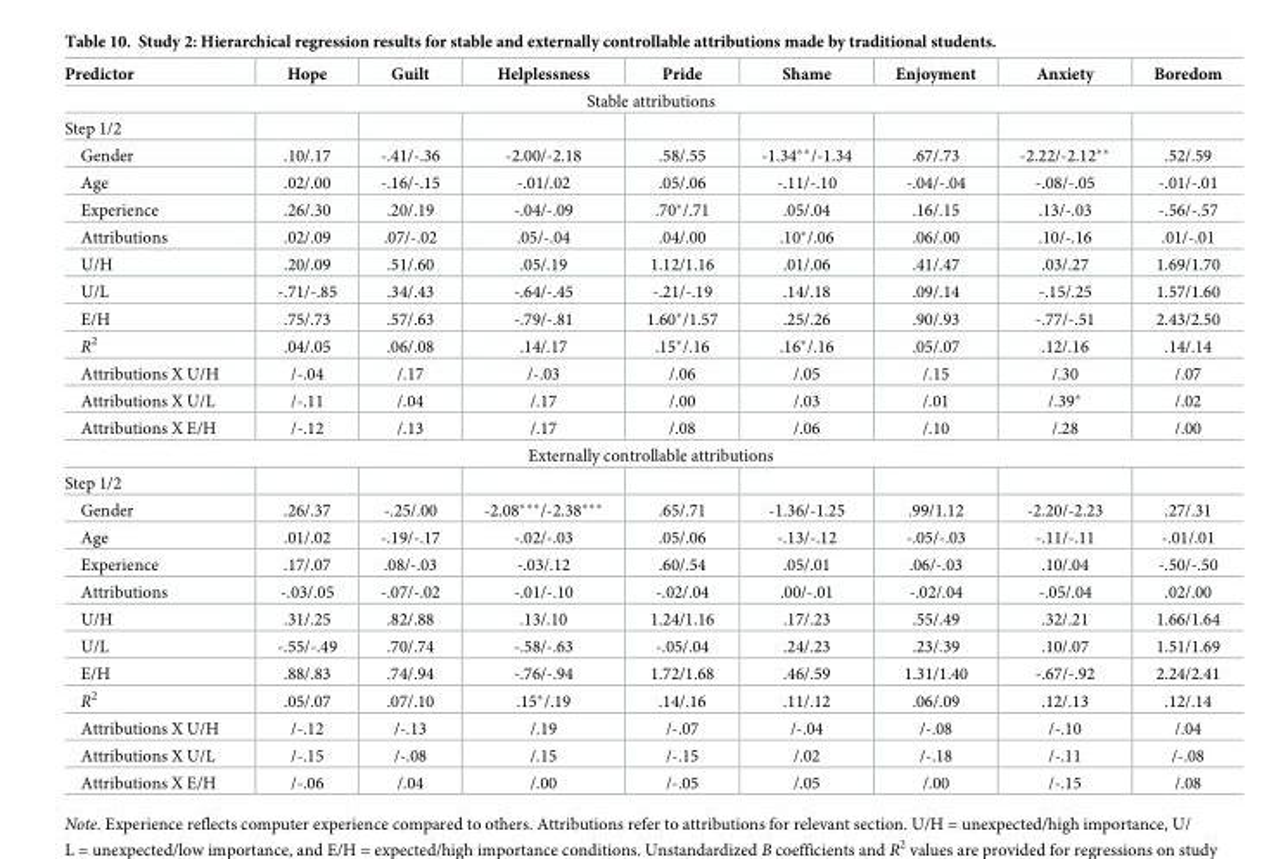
<table><thead><tr><td>Predictor</td><td>Hope</td><td>Guilt</td><td>Helplessness</td><td>Pride</td><td>Shame</td><td>Enjoyment</td><td>Anxiety</td><td>Boredom</td></tr></thead><tbody><tr><td colspan="9">Stable attributions</td></tr><tr><td colspan="9">Step 1/2</td></tr><tr><td>Gender</td><td>.10/.17</td><td>-.41/-.36</td><td>-2.00/-2.18</td><td>.58/.55</td><td>-1.34**/-1.34</td><td>.67/.73</td><td>-2.22/-2.12**</td><td>.52/.59</td></tr><tr><td>Age</td><td>.02/.00</td><td>-.16/-.15</td><td>-.01/.02</td><td>.05/.06</td><td>-.11/-.10</td><td>-.04/-.04</td><td>-.08/-.05</td><td>-.01/-.01</td></tr><tr><td>Experience</td><td>.26/.30</td><td>.20/.19</td><td>-.04/-.09</td><td>.70*/.71</td><td>.05/.04</td><td>.16/.15</td><td>.13/-.03</td><td>-.56/-.57</td></tr><tr><td>Attributions</td><td>.02/.09</td><td>.07/-.02</td><td>.05/-.04</td><td>.04/.00</td><td>.10*/.06</td><td>.06/.00</td><td>.10/-.16</td><td>.01/-.01</td></tr><tr><td>U/H</td><td>.20/.09</td><td>.51/.60</td><td>.05/.19</td><td>1.12/1.16</td><td>.01/.06</td><td>.41/.47</td><td>.03/.27</td><td>1.69/1.70</td></tr><tr><td>U/L</td><td>-.71/-.85</td><td>.34/.43</td><td>-.64/-.45</td><td>-.21/-.19</td><td>.14/.18</td><td>.09/.14</td><td>-.15/.25</td><td>1.57/1.60</td></tr><tr><td>E/H</td><td>.75/.73</td><td>.57/.63</td><td>-.79/-.81</td><td>1.60*/1.57</td><td>.25/.26</td><td>.90/.93</td><td>-.77/-.51</td><td>2.43/2.50</td></tr><tr><td>R<sup>2</sup></td><td>.04/.05</td><td>.06/.08</td><td>.14/.17</td><td>.15*/.16</td><td>.16*/.16</td><td>.05/.07</td><td>.12/.16</td><td>.14/.14</td></tr><tr><td>Attributions X U/H</td><td>/-.04</td><td>/.17</td><td>/-.03</td><td>/.06</td><td>/.05</td><td>/.15</td><td>/.30</td><td>/.07</td></tr><tr><td>Attributions X U/L</td><td>/-.11</td><td>/.04</td><td>/.17</td><td>/.00</td><td>/.03</td><td>/.01</td><td>/.39*</td><td>/.02</td></tr><tr><td>Attributions X E/H</td><td>/-.12</td><td>/.13</td><td>/.17</td><td>/.08</td><td>/.06</td><td>/.10</td><td>/.28</td><td>/.00</td></tr><tr><td colspan="9">Externally controllable attributions</td></tr><tr><td colspan="9">Step 1/2</td></tr><tr><td>Gender</td><td>.26/.37</td><td>-.25/.00</td><td>-2.08***/-2.38***</td><td>.65/.71</td><td>-1.36/-1.25</td><td>.99/1.12</td><td>-2.20/-2.23</td><td>.27/.31</td></tr><tr><td>Age</td><td>.01/.02</td><td>-.19/-.17</td><td>-.02/-.03</td><td>.05/.06</td><td>-.13/-.12</td><td>-.05/-.03</td><td>-.11/-.11</td><td>-.01/.01</td></tr><tr><td>Experience</td><td>.17/.07</td><td>.08/-.03</td><td>-.03/.12</td><td>.60/.54</td><td>.05/.01</td><td>.06/-.03</td><td>.10/.04</td><td>-.50/-.50</td></tr><tr><td>Attributions</td><td>-.03/.05</td><td>-.07/-.02</td><td>-.01/-.10</td><td>-.02/.04</td><td>.00/-.01</td><td>-.02/.04</td><td>-.05/.04</td><td>.02/.00</td></tr><tr><td>U/H</td><td>.31/.25</td><td>.82/.88</td><td>.13/.10</td><td>1.24/1.16</td><td>.17/.23</td><td>.55/.49</td><td>.32/.21</td><td>1.66/1.64</td></tr><tr><td>U/L</td><td>-.55/-.49</td><td>.70/.74</td><td>-.58/-.63</td><td>-.05/.04</td><td>.24/.23</td><td>.23/.39</td><td>.10/.07</td><td>1.51/1.69</td></tr><tr><td>E/H</td><td>.88/.83</td><td>.74/.94</td><td>-.76/-.94</td><td>1.72/1.68</td><td>.46/.59</td><td>1.31/1.40</td><td>-.67/-.92</td><td>2.24/2.41</td></tr><tr><td>R<sup>2</sup></td><td>.05/.07</td><td>.07/.10</td><td>.15*/.19</td><td>.14/.16</td><td>.11/.12</td><td>.06/.09</td><td>.12/.13</td><td>.12/.14</td></tr><tr><td>Attributions X U/H</td><td>/-.12</td><td>/-.13</td><td>/.19</td><td>/-.07</td><td>/-.04</td><td>/-.08</td><td>/-.10</td><td>/.04</td></tr><tr><td>Attributions X U/L</td><td>/-.15</td><td>/-.08</td><td>/.15</td><td>/-.15</td><td>/.02</td><td>/-.18</td><td>/-.11</td><td>/-.08</td></tr><tr><td>Attributions X E/H</td><td>/-.06</td><td>/.04</td><td>/.00</td><td>/-.05</td><td>/.05</td><td>/.00</td><td>/-.15</td><td>/.08</td></tr></tbody></table>